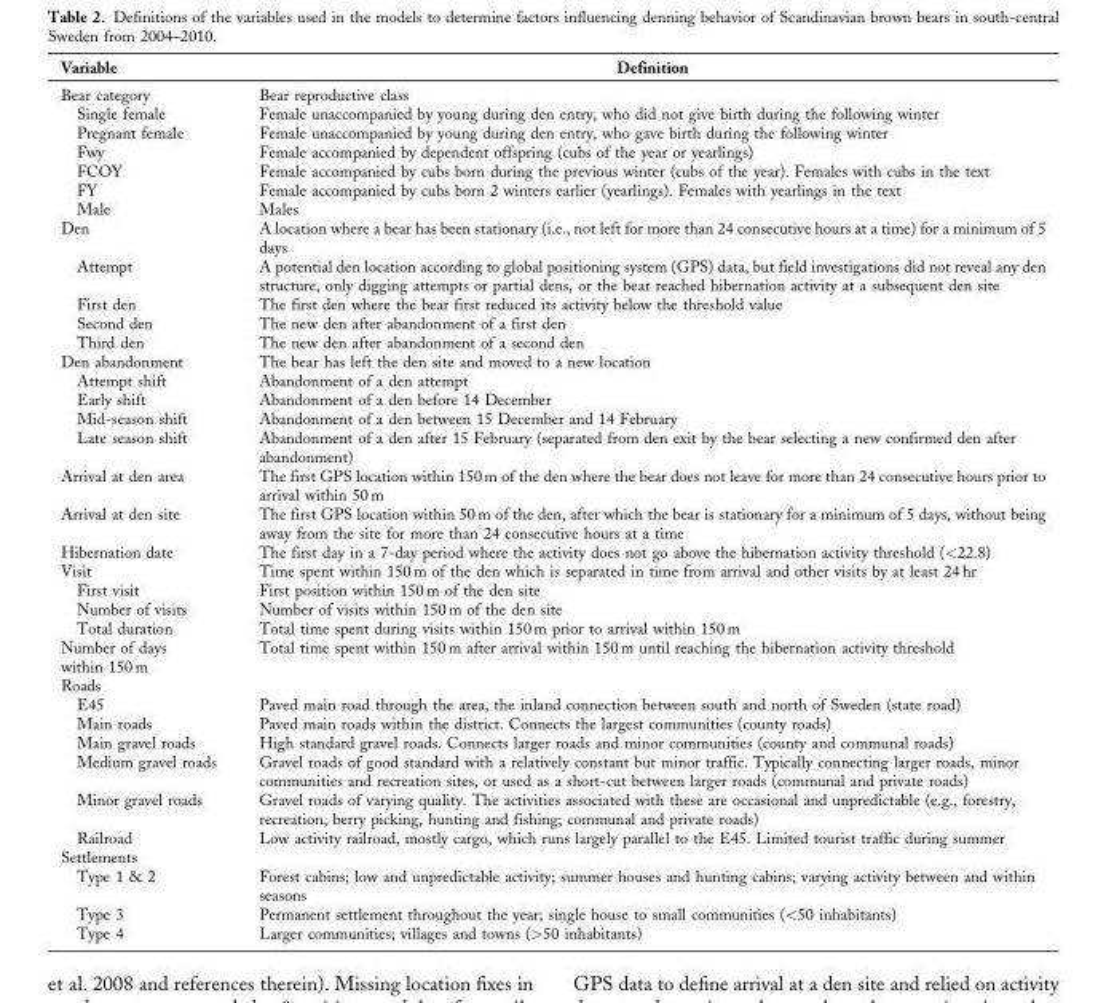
<table><thead><tr><td>Variable</td><td>Definition</td></tr></thead><tbody><tr><td>Bear category</td><td>Bear reproductive class</td></tr><tr><td>Single female</td><td>Female unaccompanied by young during den entry, who did not give birth during the following winter</td></tr><tr><td>Pregnant female</td><td>Female unaccompanied by young during den entry, who gave birth during the following winter</td></tr><tr><td>Fwy</td><td>Female accompanied by dependent offspring (cubs of the year or yearlings)</td></tr><tr><td>FCOY</td><td>Female accompanied by cubs born during the previous winter (cubs of the year). Females with cubs in the text</td></tr><tr><td>FY</td><td>Female accompanied by cubs born 2 winters earlier (yearlings). Females with yearlings in the text</td></tr><tr><td>Male</td><td>Males</td></tr><tr><td>Den</td><td>A location where a bear has been stationary (i.e., not left for more than 24 consecutive hours at a time) for a minimum of 5 days</td></tr><tr><td>Attempt</td><td>A potential den location according to global positioning system (GPS) data, but field investigations did not reveal any den structure, only digging attempts or partial dens, or the bear reached hibernation activity at a subsequent den site</td></tr><tr><td>First den</td><td>The first den where the bear first reduced its activity below the threshold value</td></tr><tr><td>Second den</td><td>The new den after abandonment of a first den</td></tr><tr><td>Third den</td><td>The new den after abandonment of a second den</td></tr><tr><td>Den abandonment</td><td>The bear has left the den site and moved to a new location</td></tr><tr><td>Attempt shift</td><td>Abandonment of a den attempt</td></tr><tr><td>Early shift</td><td>Abandonment of a den before 14 December</td></tr><tr><td>Mid-season shift</td><td>Abandonment of a den between 15 December and 14 February</td></tr><tr><td>Late season shift</td><td>Abandonment of a den after 15 February (separated from den exit by the bear selecting a new confirmed den after abandonment)</td></tr><tr><td>Arrival at den area</td><td>The first GPS location within 150 m of the den where the bear does not leave for more than 24 consecutive hours prior to arrival within 50 m</td></tr><tr><td>Arrival at den site</td><td>The first GPS location within 50 m of the den, after which the bear is stationary for a minimum of 5 days, without being away from the site for more than 24 consecutive hours at a time</td></tr><tr><td>Hibernation date</td><td>The first day in a 7-day period where the activity does not go above the hibernation activity threshold (&lt;22.8)</td></tr><tr><td>Visit</td><td>Time spent within 150 m of the den which is separated in time from arrival and other visits by at least 24 hr</td></tr><tr><td>First visit</td><td>First position within 150 m of the den site</td></tr><tr><td>Number of visits</td><td>Number of visits within 150 m of the den site</td></tr><tr><td>Total duration</td><td>Total time spent during visits within 150 m prior to arrival within 150 m</td></tr><tr><td>Number of days within 150 m</td><td>Total time spent within 150 m after arrival within 150 m until reaching the hibernation activity threshold</td></tr><tr><td colspan="2">Roads</td></tr><tr><td>E45</td><td>Paved main road through the area, the inland connection between south and north of Sweden (state road)</td></tr><tr><td>Main roads</td><td>Paved main roads within the district. Connects the largest communities (county roads)</td></tr><tr><td>Main gravel roads</td><td>High standard gravel roads. Connects larger roads and minor communities (county and communal roads)</td></tr><tr><td>Medium gravel roads</td><td>Gravel roads of good standard with a relatively constant but minor traffic. Typically connecting larger roads, minor communities and recreation sites, or used as a short-cut between larger roads (communal and private roads)</td></tr><tr><td>Minor gravel roads</td><td>Gravel roads of varying quality. The activities associated with these are occasional and unpredictable (e.g., forestry, recreation, berry picking, hunting and fishing; communal and private roads)</td></tr><tr><td>Railroad</td><td>Low activity railroad, mostly cargo, which runs largely parallel to the E45. Limited tourist traffic during summer</td></tr><tr><td colspan="2">Settlements</td></tr><tr><td>Type 1 &amp; 2</td><td>Forest cabins; low and unpredictable activity; summer houses and hunting cabins; varying activity between and within seasons</td></tr><tr><td>Type 3</td><td>Permanent settlement throughout the year; single house to small communities (&lt;50 inhabitants)</td></tr><tr><td>Type 4</td><td>Larger communities; villages and towns (&gt;50 inhabitants)</td></tr></tbody></table>